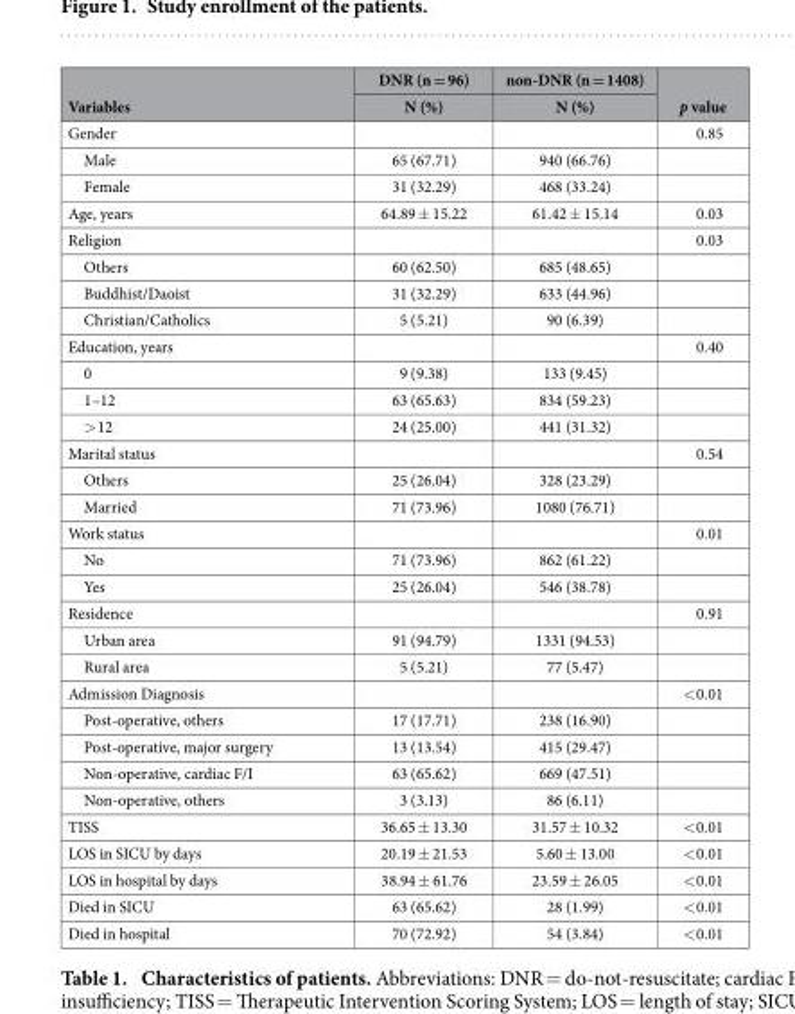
<table><thead><tr><td rowspan="2">Variables</td><td rowspan="2">DNR (n = 96) N (%)</td><td rowspan="2">non-DNR (n = 1408) N (%)</td><td rowspan="2">p value</td></tr><tr></tr></thead><tbody><tr><td>Gender</td><td></td><td></td><td>0.85</td></tr><tr><td>Male</td><td>65 (67.71)</td><td>940 (66.76)</td><td></td></tr><tr><td>Female</td><td>31 (32.29)</td><td>468 (33.24)</td><td></td></tr><tr><td>Age, years</td><td>64.89 ± 15.22</td><td>61.42 ± 15.14</td><td>0.03</td></tr><tr><td>Religion</td><td></td><td></td><td>0.03</td></tr><tr><td>Others</td><td>60 (62.50)</td><td>685 (48.65)</td><td></td></tr><tr><td>Buddhist/Daoist</td><td>31 (32.29)</td><td>633 (44.96)</td><td></td></tr><tr><td>Christian/Catholics</td><td>5 (5.21)</td><td>90 (6.39)</td><td></td></tr><tr><td>Education, years</td><td></td><td></td><td>0.40</td></tr><tr><td>0</td><td>9 (9.38)</td><td>133 (9.45)</td><td></td></tr><tr><td>1–12</td><td>63 (65.63)</td><td>834 (59.23)</td><td></td></tr><tr><td>&gt; 12</td><td>24 (25.00)</td><td>441 (31.32)</td><td></td></tr><tr><td>Marital status</td><td></td><td></td><td>0.54</td></tr><tr><td>Others</td><td>25 (26.04)</td><td>328 (23.29)</td><td></td></tr><tr><td>Married</td><td>71 (73.96)</td><td>1080 (76.71)</td><td></td></tr><tr><td>Work status</td><td></td><td></td><td>0.01</td></tr><tr><td>No</td><td>71 (73.96)</td><td>862 (61.22)</td><td></td></tr><tr><td>Yes</td><td>25 (26.04)</td><td>546 (38.78)</td><td></td></tr><tr><td>Residence</td><td></td><td></td><td>0.91</td></tr><tr><td>Urban area</td><td>91 (94.79)</td><td>1331 (94.53)</td><td></td></tr><tr><td>Rural area</td><td>5 (5.21)</td><td>77 (5.47)</td><td></td></tr><tr><td>Admission Diagnosis</td><td></td><td></td><td>&lt; 0.01</td></tr><tr><td>Post-operative, others</td><td>17 (17.71)</td><td>238 (16.90)</td><td></td></tr><tr><td>Post-operative, major surgery</td><td>13 (13.54)</td><td>415 (29.47)</td><td></td></tr><tr><td>Non-operative, cardiac F/I</td><td>63 (65.62)</td><td>669 (47.51)</td><td></td></tr><tr><td>Non-operative, others</td><td>3 (3.13)</td><td>86 (6.11)</td><td></td></tr><tr><td>TISS</td><td>36.65 ± 13.30</td><td>31.57 ± 10.32</td><td>&lt; 0.01</td></tr><tr><td>LOS in SICU by days</td><td>20.19 ± 21.53</td><td>5.60 ± 13.00</td><td>&lt; 0.01</td></tr><tr><td>LOS in hospital by days</td><td>38.94 ± 61.76</td><td>23.59 ± 26.05</td><td>&lt; 0.01</td></tr><tr><td>Died in SICU</td><td>63 (65.62)</td><td>28 (1.99)</td><td>&lt; 0.01</td></tr><tr><td>Died in hospital</td><td>70 (72.92)</td><td>54 (3.84)</td><td>&lt; 0.01</td></tr></tbody></table>